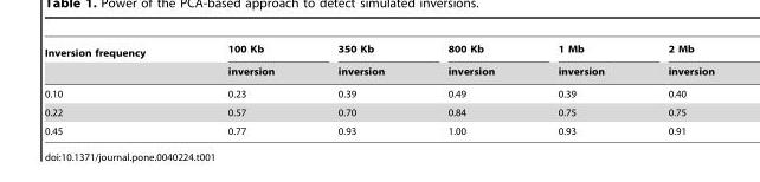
<table><thead><tr><td rowspan="2">Inversion frequency</td><td rowspan="2">100 Kb inversion</td><td rowspan="2">350 Kb inversion</td><td rowspan="2">800 Kb inversion</td><td rowspan="2">1 Mb inversion</td><td rowspan="2">2 Mb inversion</td></tr><tr></tr></thead><tbody><tr><td>0.10</td><td>0.23</td><td>0.39</td><td>0.49</td><td>0.39</td><td>0.40</td></tr><tr><td>0.22</td><td>0.57</td><td>0.70</td><td>0.84</td><td>0.75</td><td>0.75</td></tr><tr><td>0.45</td><td>0.77</td><td>0.93</td><td>1.00</td><td>0.93</td><td>0.91</td></tr></tbody></table>